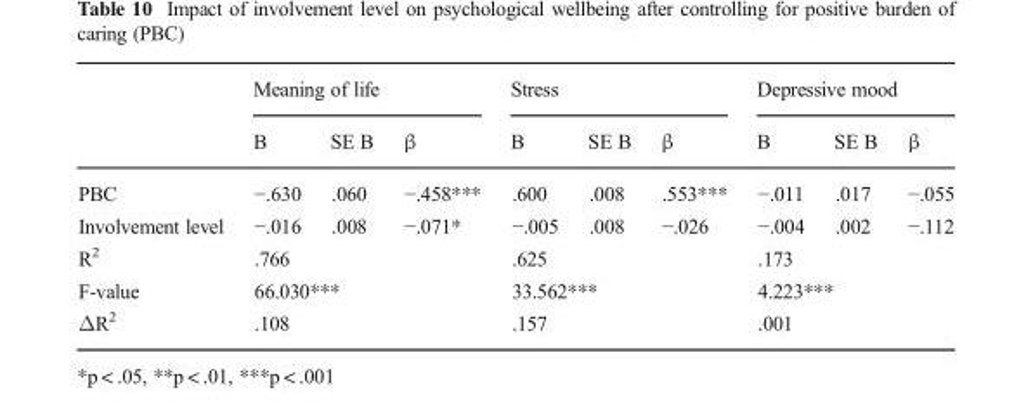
<table><thead><tr><td rowspan="2"></td><td colspan="3">Meaning of life</td><td colspan="3">Stress</td><td colspan="3">Depressive mood</td></tr><tr><td>B</td><td>SE B</td><td>β</td><td>B</td><td>SE B</td><td>β</td><td>B</td><td>SE B</td><td>β</td></tr></thead><tbody><tr><td>PBC</td><td>−.630</td><td>.060</td><td>−.458***</td><td>.600</td><td>.008</td><td>.553***</td><td>−.011</td><td>.017</td><td>−.055</td></tr><tr><td>Involvement level</td><td>−.016</td><td>.008</td><td>−.071*</td><td>−.005</td><td>.008</td><td>−.026</td><td>−.004</td><td>.002</td><td>−.112</td></tr><tr><td>R<sup>2</sup></td><td colspan="3">.766</td><td colspan="3">.625</td><td colspan="3">.173</td></tr><tr><td>F-value</td><td colspan="3">66.030***</td><td colspan="3">33.562***</td><td colspan="3">4.223***</td></tr><tr><td>ΔR<sup>2</sup></td><td colspan="3">.108</td><td colspan="3">.157</td><td colspan="3">.001</td></tr></tbody></table>